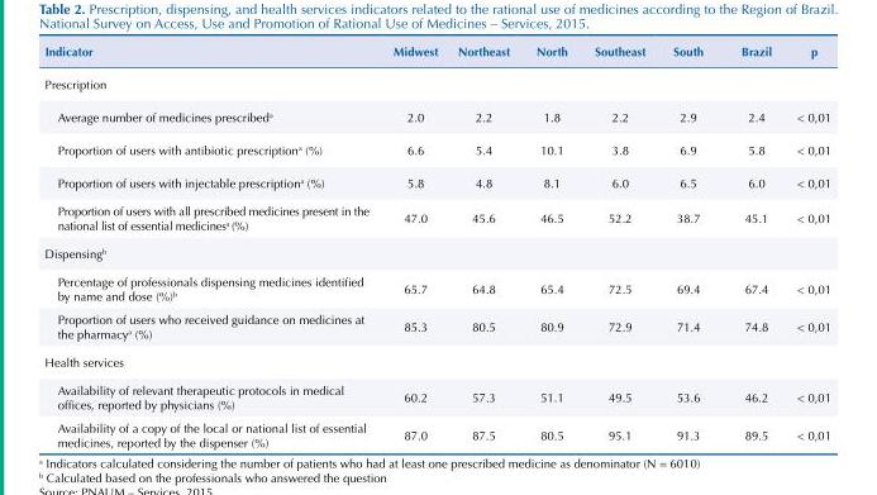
<table><thead><tr><td>Indicator</td><td>Midwest</td><td>Northeast</td><td>North</td><td>Southeast</td><td>South</td><td>Brazil</td><td>p</td></tr></thead><tbody><tr><td colspan="8">Prescription</td></tr><tr><td>Average number of medicines prescribed<sup>a</sup></td><td>2.0</td><td>2.2</td><td>1.8</td><td>2.2</td><td>2.9</td><td>2.4</td><td>&lt; 0,01</td></tr><tr><td>Proportion of users with antibiotic prescription<sup>a</sup> (%)</td><td>6.6</td><td>5.4</td><td>10.1</td><td>3.8</td><td>6.9</td><td>5.8</td><td>&lt; 0,01</td></tr><tr><td>Proportion of users with injectable prescription<sup>a</sup> (%)</td><td>5.8</td><td>4.8</td><td>8.1</td><td>6.0</td><td>6.5</td><td>6.0</td><td>&lt; 0,01</td></tr><tr><td>Proportion of users with all prescribed medicines present in the national list of essential medicines<sup>a</sup> (%)</td><td>47.0</td><td>45.6</td><td>46.5</td><td>52.2</td><td>38.7</td><td>45.1</td><td>&lt; 0,01</td></tr><tr><td colspan="8">Dispensing<sup>b</sup></td></tr><tr><td>Percentage of professionals dispensing medicines identified by name and dose (%)<sup>b</sup></td><td>65.7</td><td>64.8</td><td>65.4</td><td>72.5</td><td>69.4</td><td>67.4</td><td>&lt; 0,01</td></tr><tr><td>Proportion of users who received guidance on medicines at the pharmacy<sup>a</sup> (%)</td><td>85.3</td><td>80.5</td><td>80.9</td><td>72.9</td><td>71.4</td><td>74.8</td><td>&lt; 0,01</td></tr><tr><td colspan="8">Health services</td></tr><tr><td>Availability of relevant therapeutic protocols in medical offices, reported by physicians (%)</td><td>60.2</td><td>57.3</td><td>51.1</td><td>49.5</td><td>53.6</td><td>46.2</td><td>&lt; 0,01</td></tr><tr><td>Availability of a copy of the local or national list of essential medicines, reported by the dispenser (%)</td><td>87.0</td><td>87.5</td><td>80.5</td><td>95.1</td><td>91.3</td><td>89.5</td><td>&lt; 0,01</td></tr></tbody></table>